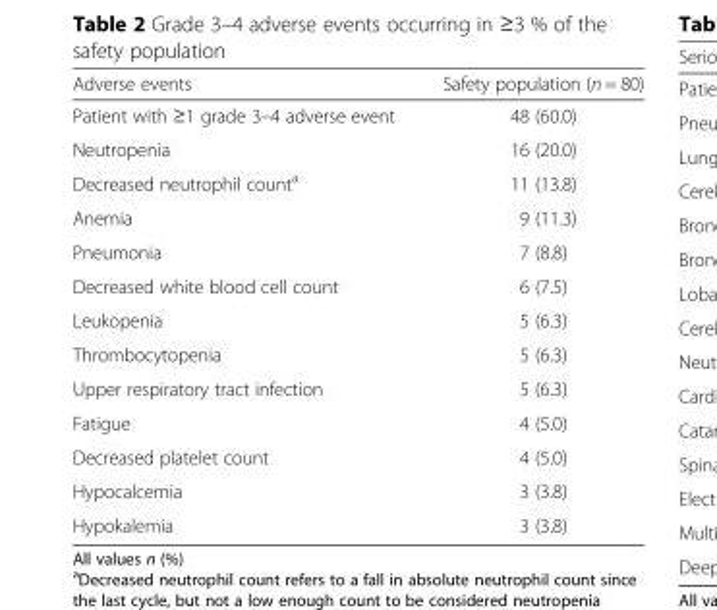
<table><thead><tr><td>Adverse events</td><td>Safety population (n = 80)</td></tr></thead><tbody><tr><td>Patient with ≥1 grade 3–4 adverse event</td><td>48 (60.0)</td></tr><tr><td>Neutropenia</td><td>16 (20.0)</td></tr><tr><td>Decreased neutrophil count<sup>a</sup></td><td>11 (13.8)</td></tr><tr><td>Anemia</td><td>9 (11.3)</td></tr><tr><td>Pneumonia</td><td>7 (8.8)</td></tr><tr><td>Decreased white blood cell count</td><td>6 (7.5)</td></tr><tr><td>Leukopenia</td><td>5 (6.3)</td></tr><tr><td>Thrombocytopenia</td><td>5 (6.3)</td></tr><tr><td>Upper respiratory tract infection</td><td>5 (6.3)</td></tr><tr><td>Fatigue</td><td>4 (5.0)</td></tr><tr><td>Decreased platelet count</td><td>4 (5.0)</td></tr><tr><td>Hypocalcemia</td><td>3 (3.8)</td></tr><tr><td>Hypokalemia</td><td>3 (3.8)</td></tr></tbody></table>